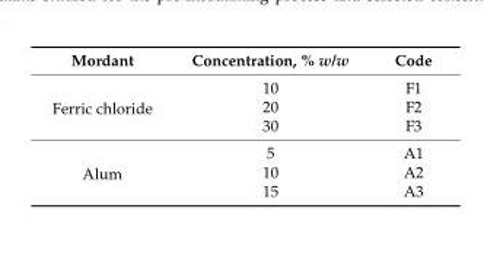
<table><thead><tr><td>Mordant</td><td>Concentration, % w/w</td><td>Code</td></tr></thead><tbody><tr><td rowspan="3">Ferric chloride</td><td>10</td><td>F1</td></tr><tr><td>20</td><td>F2</td></tr><tr><td>30</td><td>F3</td></tr><tr><td rowspan="3">Alum</td><td>5</td><td>A1</td></tr><tr><td>10</td><td>A2</td></tr><tr><td>15</td><td>A3</td></tr></tbody></table>